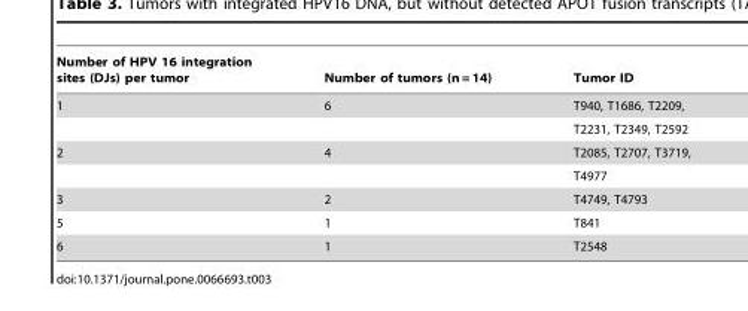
<table><thead><tr><td>Number of HPV 16 integration sites (DJs) per tumor</td><td>Number of tumors (n = 14)</td><td>Tumor ID</td></tr></thead><tbody><tr><td rowspan="2">1</td><td>6</td><td>T940, T1686, T2209,</td></tr><tr><td></td><td>T2231, T2349, T2592</td></tr><tr><td rowspan="2">2</td><td>4</td><td>T2085, T2707, T3719,</td></tr><tr><td></td><td>T4977</td></tr><tr><td>3</td><td>2</td><td>T4749, T4793</td></tr><tr><td>5</td><td>1</td><td>T841</td></tr><tr><td>6</td><td>1</td><td>T2548</td></tr></tbody></table>